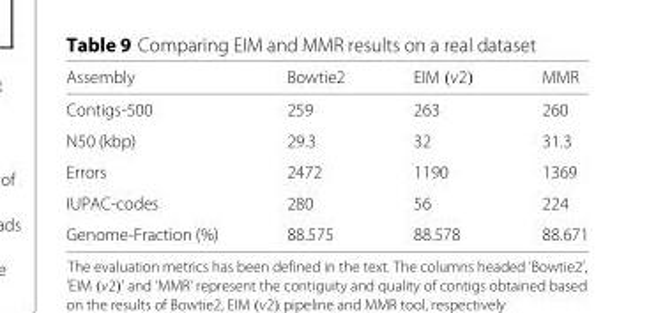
<table><thead><tr><td>Assembly</td><td>Bowtie2</td><td>EIM (v2)</td><td>MMR</td></tr></thead><tbody><tr><td>Contigs-500</td><td>259</td><td>263</td><td>260</td></tr><tr><td>N50 (kbp)</td><td>29.3</td><td>32</td><td>31.3</td></tr><tr><td>Errors</td><td>2472</td><td>1190</td><td>1369</td></tr><tr><td>IUPAC-codes</td><td>280</td><td>56</td><td>224</td></tr><tr><td>Genome-Fraction (%)</td><td>88.575</td><td>88.578</td><td>88.671</td></tr></tbody></table>